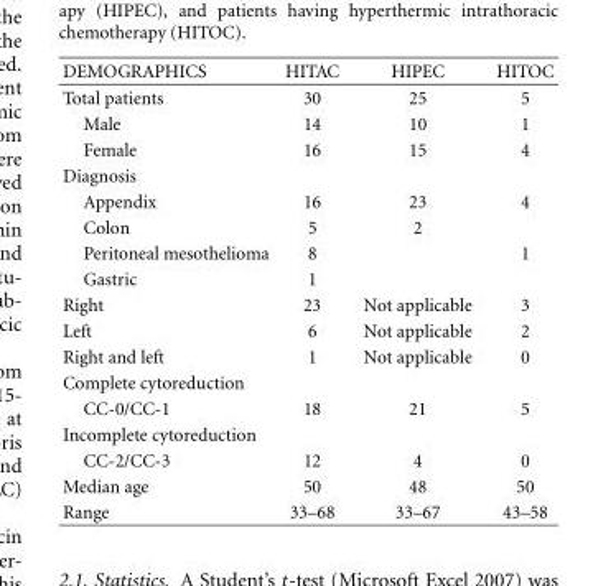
<table><thead><tr><td>DEMOGRAPHICS</td><td>HITAC</td><td>HIPEC</td><td>HITOC</td></tr></thead><tbody><tr><td>Total patients</td><td>30</td><td>25</td><td>5</td></tr><tr><td>Male</td><td>14</td><td>10</td><td>1</td></tr><tr><td>Female</td><td>16</td><td>15</td><td>4</td></tr><tr><td colspan="4">Diagnosis</td></tr><tr><td>Appendix</td><td>16</td><td>23</td><td>4</td></tr><tr><td>Colon</td><td>5</td><td>2</td><td></td></tr><tr><td>Peritoneal mesothelioma</td><td>8</td><td></td><td>1</td></tr><tr><td>Gastric</td><td>1</td><td></td><td></td></tr><tr><td>Right</td><td>23</td><td>Not applicable</td><td>3</td></tr><tr><td>Left</td><td>6</td><td>Not applicable</td><td>2</td></tr><tr><td>Right and left</td><td>1</td><td>Not applicable</td><td>0</td></tr><tr><td colspan="4">Complete cytoreduction</td></tr><tr><td>CC-0/CC-1</td><td>18</td><td>21</td><td>5</td></tr><tr><td colspan="4">Incomplete cytoreduction</td></tr><tr><td>CC-2/CC-3</td><td>12</td><td>4</td><td>0</td></tr><tr><td>Median age</td><td>50</td><td>48</td><td>50</td></tr><tr><td>Range</td><td>33–68</td><td>33–67</td><td>43–58</td></tr></tbody></table>